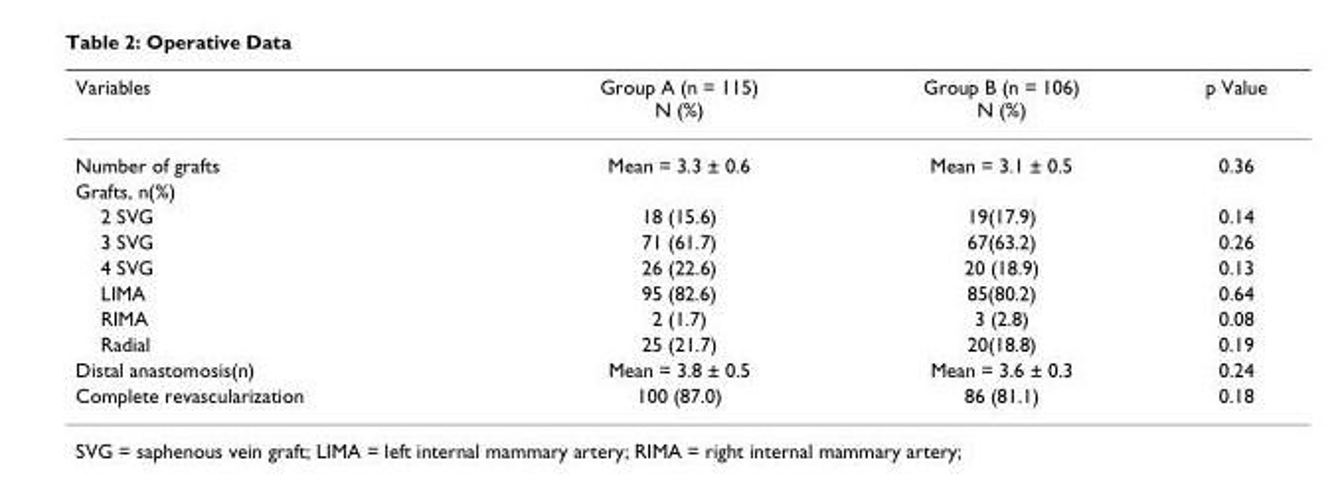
<table><thead><tr><td>Variables</td><td>Group A (n = 115) N (%)</td><td>Group B (n = 106) N (%)</td><td>p Value</td></tr></thead><tbody><tr><td>Number of grafts</td><td>Mean = 3.3 ± 0.6</td><td>Mean = 3.1 ± 0.5</td><td>0.36</td></tr><tr><td colspan="4">Grafts, n(%)</td></tr><tr><td>2 SVG</td><td>18 (15.6)</td><td>19(17.9)</td><td>0.14</td></tr><tr><td>3 SVG</td><td>71 (61.7)</td><td>67(63.2)</td><td>0.26</td></tr><tr><td>4 SVG</td><td>26 (22.6)</td><td>20 (18.9)</td><td>0.13</td></tr><tr><td>LIMA</td><td>95 (82.6)</td><td>85(80.2)</td><td>0.64</td></tr><tr><td>RIMA</td><td>2 (1.7)</td><td>3 (2.8)</td><td>0.08</td></tr><tr><td>Radial</td><td>25 (21.7)</td><td>20(18.8)</td><td>0.19</td></tr><tr><td>Distal anastomosis(n)</td><td>Mean = 3.8 ± 0.5</td><td>Mean = 3.6 ± 0.3</td><td>0.24</td></tr><tr><td>Complete revascularization</td><td>100 (87.0)</td><td>86 (81.1)</td><td>0.18</td></tr></tbody></table>